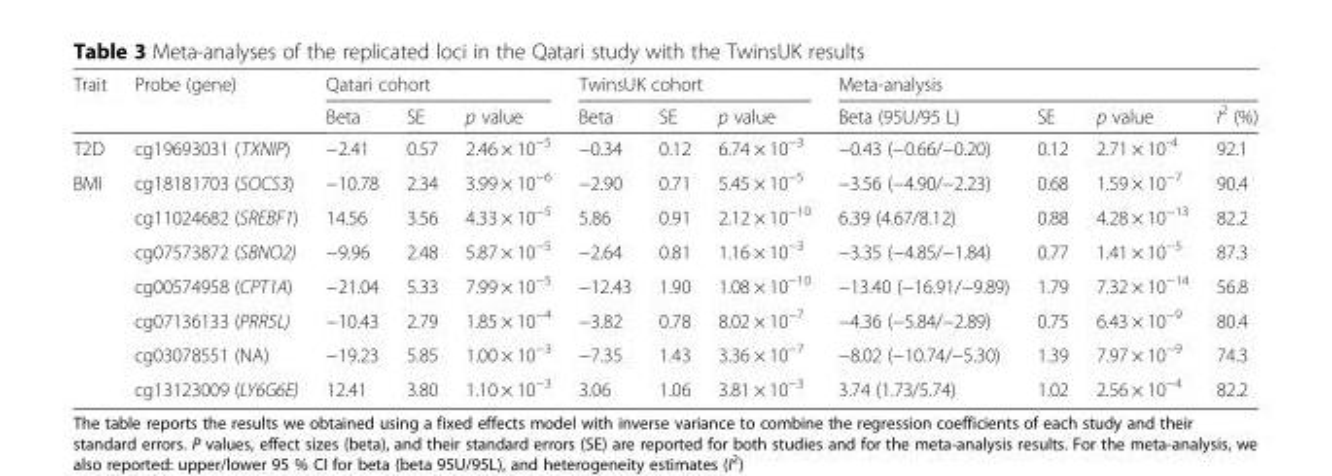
<table><thead><tr><td rowspan="2">Trait</td><td rowspan="2">Probe (gene)</td><td colspan="3">Qatari cohort</td><td colspan="3">TwinsUK cohort</td><td colspan="4">Meta-analysis</td></tr><tr><td>Beta</td><td>SE</td><td>p value</td><td>Beta</td><td>SE</td><td>p value</td><td>Beta (95U/95 L)</td><td>SE</td><td>p value</td><td>I<sup>2</sup> (%)</td></tr></thead><tbody><tr><td>T2D</td><td>cg19693031 (TXNIP)</td><td>−2.41</td><td>0.57</td><td>2.46 × 10<sup>−5</sup></td><td>−0.34</td><td>0.12</td><td>6.74 × 10<sup>−3</sup></td><td>−0.43 (−0.66/−0.20)</td><td>0.12</td><td>2.71 × 10<sup>-4</sup></td><td>92.1</td></tr><tr><td rowspan="7">BMI</td><td>cg18181703 (SOCS3)</td><td>−10.78</td><td>2.34</td><td>3.99 × 10<sup>−6</sup></td><td>−2.90</td><td>0.71</td><td>5.45 × 10<sup>−5</sup></td><td>−3.56 (−4.90/−2.23)</td><td>0.68</td><td>1.59 × 10<sup>−7</sup></td><td>90.4</td></tr><tr><td>cg11024682 (SREBF1)</td><td>14.56</td><td>3.56</td><td>4.33 × 10<sup>−5</sup></td><td>5.86</td><td>0.91</td><td>2.12 × 10<sup>−10</sup></td><td>6.39 (4.67/8.12)</td><td>0.88</td><td>4.28 × 10<sup>−13</sup></td><td>82.2</td></tr><tr><td>cg07573872 (SBNO2)</td><td>−9.96</td><td>2.48</td><td>5.87 × 10<sup>−5</sup></td><td>−2.64</td><td>0.81</td><td>1.16 × 10<sup>−3</sup></td><td>−3.35 (−4.85/−1.84)</td><td>0.77</td><td>1.41 × 10<sup>−5</sup></td><td>87.3</td></tr><tr><td>cg00574958 (CPT1A)</td><td>−21.04</td><td>5.33</td><td>7.99 × 10<sup>−5</sup></td><td>−12.43</td><td>1.90</td><td>1.08 × 10<sup>−10</sup></td><td>−13.40 (−16.91/−9.89)</td><td>1.79</td><td>7.32 × 10<sup>−14</sup></td><td>56.8</td></tr><tr><td>cg07136133 (PRR5L)</td><td>−10.43</td><td>2.79</td><td>1.85 × 10<sup>−4</sup></td><td>−3.82</td><td>0.78</td><td>8.02 × 10<sup>−7</sup></td><td>−4.36 (−5.84/−2.89)</td><td>0.75</td><td>6.43 × 10<sup>−9</sup></td><td>80.4</td></tr><tr><td>cg03078551 (NA)</td><td>−19.23</td><td>5.85</td><td>1.00 × 10<sup>−3</sup></td><td>−7.35</td><td>1.43</td><td>3.36 × 10<sup>−7</sup></td><td>−8.02 (−10.74/−5.30)</td><td>1.39</td><td>7.97 × 10<sup>−9</sup></td><td>74.3</td></tr><tr><td>cg13123009 (LY6G6E)</td><td>12.41</td><td>3.80</td><td>1.10 × 10<sup>−3</sup></td><td>3.06</td><td>1.06</td><td>3.81 × 10<sup>−3</sup></td><td>3.74 (1.73/5.74)</td><td>1.02</td><td>2.56 × 10<sup>−4</sup></td><td>82.2</td></tr></tbody></table>